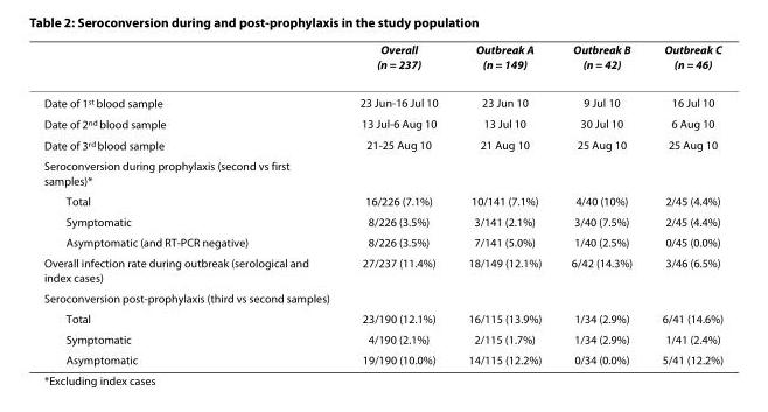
<table><thead><tr><td></td><td>Overall (n = 237)</td><td>Outbreak A (n = 149)</td><td>Outbreak B (n = 42)</td><td>Outbreak C (n = 46)</td></tr></thead><tbody><tr><td>Date of 1<sup>st</sup> blood sample</td><td>23 Jun-16 Jul 10</td><td>23 Jun 10</td><td>9 Jul 10</td><td>16 Jul 10</td></tr><tr><td>Date of 2<sup>nd</sup> blood sample</td><td>13 Jul-6 Aug 10</td><td>13 Jul 10</td><td>30 Jul 10</td><td>6 Aug 10</td></tr><tr><td>Date of 3<sup>rd</sup> blood sample</td><td>21-25 Aug 10</td><td>21 Aug 10</td><td>25 Aug 10</td><td>25 Aug 10</td></tr><tr><td colspan="5">Seroconversion during prophylaxis (second vs first samples)*</td></tr><tr><td>Total</td><td>16/226 (7.1%)</td><td>10/141 (7.1%)</td><td>4/40 (10%)</td><td>2/45 (4.4%)</td></tr><tr><td>Symptomatic</td><td>8/226 (3.5%)</td><td>3/141 (2.1%)</td><td>3/40 (7.5%)</td><td>2/45 (4.4%)</td></tr><tr><td>Asymptomatic (and RT-PCR negative)</td><td>8/226 (3.5%)</td><td>7/141 (5.0%)</td><td>1/40 (2.5%)</td><td>0/45 (0.0%)</td></tr><tr><td>Overall infection rate during outbreak (serological and index cases)</td><td>27/237 (11.4%)</td><td>18/149 (12.1%)</td><td>6/42 (14.3%)</td><td>3/46 (6.5%)</td></tr><tr><td colspan="5">Seroconversion post-prophylaxis (third vs second samples)</td></tr><tr><td>Total</td><td>23/190 (12.1%)</td><td>16/115 (13.9%)</td><td>1/34 (2.9%)</td><td>6/41 (14.6%)</td></tr><tr><td>Symptomatic</td><td>4/190 (2.1%)</td><td>2/115 (1.7%)</td><td>1/34 (2.9%)</td><td>1/41 (2.4%)</td></tr><tr><td>Asymptomatic</td><td>19/190 (10.0%)</td><td>14/115 (12.2%)</td><td>0/34 (0.0%)</td><td>5/41 (12.2%)</td></tr></tbody></table>